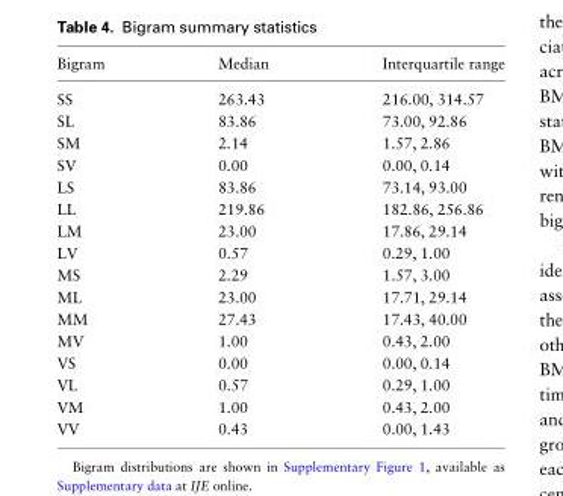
<table><thead><tr><td>Bigram</td><td>Median</td><td>Interquartile range</td></tr></thead><tbody><tr><td>SS</td><td>263.43</td><td>216.00, 314.57</td></tr><tr><td>SL</td><td>83.86</td><td>73.00, 92.86</td></tr><tr><td>SM</td><td>2.14</td><td>1.57, 2.86</td></tr><tr><td>SV</td><td>0.00</td><td>0.00, 0.14</td></tr><tr><td>LS</td><td>83.86</td><td>73.14, 93.00</td></tr><tr><td>LL</td><td>219.86</td><td>182.86, 256.86</td></tr><tr><td>LM</td><td>23.00</td><td>17.86, 29.14</td></tr><tr><td>LV</td><td>0.57</td><td>0.29, 1.00</td></tr><tr><td>MS</td><td>2.29</td><td>1.57, 3.00</td></tr><tr><td>ML</td><td>23.00</td><td>17.71, 29.14</td></tr><tr><td>MM</td><td>27.43</td><td>17.43, 40.00</td></tr><tr><td>MV</td><td>1.00</td><td>0.43, 2.00</td></tr><tr><td>VS</td><td>0.00</td><td>0.00, 0.14</td></tr><tr><td>VL</td><td>0.57</td><td>0.29, 1.00</td></tr><tr><td>VM</td><td>1.00</td><td>0.43, 2.00</td></tr><tr><td>VV</td><td>0.43</td><td>0.00, 1.43</td></tr></tbody></table>